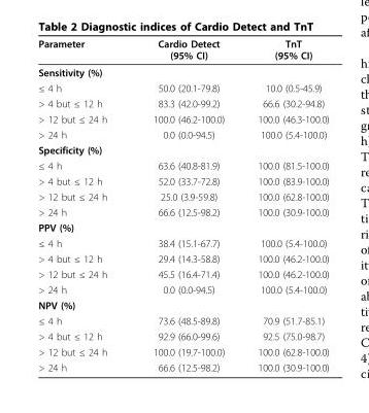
<table><thead><tr><td>Parameter</td><td>Cardio Detect (95% CI)</td><td>TnT (95% CI)</td></tr></thead><tbody><tr><td colspan="3">Sensitivity (%)</td></tr><tr><td>≤ 4 h</td><td>50.0 (20.1-79.8)</td><td>10.0 (0.5-45.9)</td></tr><tr><td>&gt; 4 but ≤ 12 h</td><td>83.3 (42.0-99.2)</td><td>66.6 (30.2-94.8)</td></tr><tr><td>&gt; 12 but ≤ 24 h</td><td>100.0 (46.2-100.0)</td><td>100.0 (46.3-100.0)</td></tr><tr><td>&gt; 24 h</td><td>0.0 (0.0-94.5)</td><td>100.0 (5.4-100.0)</td></tr><tr><td colspan="3">Specificity (%)</td></tr><tr><td>≤ 4 h</td><td>63.6 (40.8-81.9)</td><td>100.0 (81.5-100.0)</td></tr><tr><td>&gt; 4 but ≤ 12 h</td><td>52.0 (33.7-72.8)</td><td>100.0 (83.9-100.0)</td></tr><tr><td>&gt; 12 but ≤ 24 h</td><td>25.0 (3.9-59.8)</td><td>100.0 (62.8-100.0)</td></tr><tr><td>&gt; 24 h</td><td>66.6 (12.5-98.2)</td><td>100.0 (30.9-100.0)</td></tr><tr><td colspan="3">PPV (%)</td></tr><tr><td>≤ 4 h</td><td>38.4 (15.1-67.7)</td><td>100.0 (5.4-100.0)</td></tr><tr><td>&gt; 4 but ≤ 12 h</td><td>29.4 (14.3-58.8)</td><td>100.0 (46.2-100.0)</td></tr><tr><td>&gt; 12 but ≤ 24 h</td><td>45.5 (16.4-71.4)</td><td>100.0 (46.2-100.0)</td></tr><tr><td>&gt; 24 h</td><td>0.0 (0.0-94.5)</td><td>100.0 (5.4-100.0)</td></tr><tr><td colspan="3">NPV (%)</td></tr><tr><td>≤ 4 h</td><td>73.6 (48.5-89.8)</td><td>70.9 (51.7-85.1)</td></tr><tr><td>&gt; 4 but ≤ 12 h</td><td>92.9 (66.0-99.6)</td><td>92.5 (75.0-98.7)</td></tr><tr><td>&gt; 12 but ≤ 24 h</td><td>100.0 (19.7-100.0)</td><td>100.0 (62.8-100.0)</td></tr><tr><td>&gt; 24 h</td><td>66.6 (12.5-98.2)</td><td>100.0 (30.9-100.0)</td></tr></tbody></table>